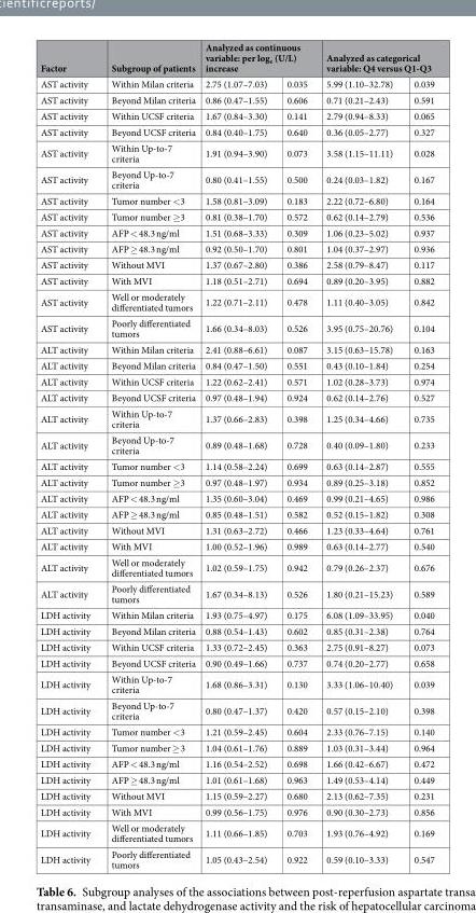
<table><thead><tr><td rowspan="2">Factor AST activity</td><td rowspan="2">Subgroup of patients Within Milan criteria</td><td colspan="2">Analyzed as continuous variable: per log<sub>e</sub> (U/L) increase</td><td colspan="2">Analyzed as categorical variable: Q4 versus Q1-Q3</td></tr><tr><td>2.75 (1.07–7.03)</td><td>0.035</td><td>5.99 (1.10–32.78)</td><td>0.039</td></tr></thead><tbody><tr><td>AST activity</td><td>Beyond Milan criteria</td><td>0.86 (0.47–1.55)</td><td>0.606</td><td>0.71 (0.21–2.43)</td><td>0.591</td></tr><tr><td>AST activity</td><td>Within UCSF criteria</td><td>1.67 (0.84–3.30)</td><td>0.141</td><td>2.79 (0.94–8.33)</td><td>0.065</td></tr><tr><td>AST activity</td><td>Beyond UCSF criteria</td><td>0.84 (0.40–1.75)</td><td>0.640</td><td>0.36 (0.05–2.77)</td><td>0.327</td></tr><tr><td>AST activity</td><td>Within Up-to-7 criteria</td><td>1.91 (0.94–3.90)</td><td>0.073</td><td>3.58 (1.15–11.11)</td><td>0.028</td></tr><tr><td>AST activity</td><td>Beyond Up-to-7 criteria</td><td>0.80 (0.41–1.55)</td><td>0.500</td><td>0.24 (0.03–1.82)</td><td>0.167</td></tr><tr><td>AST activity</td><td>Tumor number &lt;3</td><td>1.58 (0.81–3.09)</td><td>0.183</td><td>2.22 (0.72–6.80)</td><td>0.164</td></tr><tr><td>AST activity</td><td>Tumor number ≥3</td><td>0.81 (0.38–1.70)</td><td>0.572</td><td>0.62 (0.14–2.79)</td><td>0.536</td></tr><tr><td>AST activity</td><td>AFP &lt; 48.3 ng/ml</td><td>1.51 (0.68–3.33)</td><td>0.309</td><td>1.06 (0.23–5.02)</td><td>0.937</td></tr><tr><td>AST activity</td><td>AFP ≥ 48.3 ng/ml</td><td>0.92 (0.50–1.70)</td><td>0.801</td><td>1.04 (0.37–2.97)</td><td>0.936</td></tr><tr><td>AST activity</td><td>Without MVI</td><td>1.37 (0.67–2.80)</td><td>0.386</td><td>2.58 (0.79–8.47)</td><td>0.117</td></tr><tr><td>AST activity</td><td>With MVI</td><td>1.18 (0.51–2.71)</td><td>0.694</td><td>0.89 (0.20–3.95)</td><td>0.882</td></tr><tr><td>AST activity</td><td>Well or moderately differentiated tumors</td><td>1.22 (0.71–2.11)</td><td>0.478</td><td>1.11 (0.40–3.05)</td><td>0.842</td></tr><tr><td>AST activity</td><td>Poorly differentiated tumors</td><td>1.66 (0.34–8.03)</td><td>0.526</td><td>3.95 (0.75–20.76)</td><td>0.104</td></tr><tr><td>ALT activity</td><td>Within Milan criteria</td><td>2.41 (0.88–6.61)</td><td>0.087</td><td>3.15 (0.63–15.78)</td><td>0.163</td></tr><tr><td>ALT activity</td><td>Beyond Milan criteria</td><td>0.84 (0.47–1.50)</td><td>0.551</td><td>0.43 (0.10–1.84)</td><td>0.254</td></tr><tr><td>ALT activity</td><td>Within UCSF criteria</td><td>1.22 (0.62–2.41)</td><td>0.571</td><td>1.02 (0.28–3.73)</td><td>0.974</td></tr><tr><td>ALT activity</td><td>Beyond UCSF criteria</td><td>0.97 (0.48–1.94)</td><td>0.924</td><td>0.62 (0.14–2.76)</td><td>0.527</td></tr><tr><td>ALT activity</td><td>Within Up-to-7 criteria</td><td>1.37 (0.66–2.83)</td><td>0.398</td><td>1.25 (0.34–4.66)</td><td>0.735</td></tr><tr><td>ALT activity</td><td>Beyond Up-to-7 criteria</td><td>0.89 (0.48–1.68)</td><td>0.728</td><td>0.40 (0.09–1.80)</td><td>0.233</td></tr><tr><td>ALT activity</td><td>Tumor number &lt;3</td><td>1.14 (0.58–2.24)</td><td>0.699</td><td>0.63 (0.14–2.87)</td><td>0.555</td></tr><tr><td>ALT activity</td><td>Tumor number ≥3</td><td>0.97 (0.48–1.97)</td><td>0.934</td><td>0.89 (0.25–3.18)</td><td>0.852</td></tr><tr><td>ALT activity</td><td>AFP &lt; 48.3 ng/ml</td><td>1.35 (0.60–3.04)</td><td>0.469</td><td>0.99 (0.21–4.65)</td><td>0.986</td></tr><tr><td>ALT activity</td><td>AFP ≥ 48.3 ng/ml</td><td>0.85 (0.48–1.51)</td><td>0.582</td><td>0.52 (0.15–1.82)</td><td>0.308</td></tr><tr><td>ALT activity</td><td>Without MVI</td><td>1.31 (0.63–2.72)</td><td>0.466</td><td>1.23 (0.33–4.64)</td><td>0.761</td></tr><tr><td>ALT activity</td><td>With MVI</td><td>1.00 (0.52–1.96)</td><td>0.989</td><td>0.63 (0.14–2.77)</td><td>0.540</td></tr><tr><td>ALT activity</td><td>Well or moderately differentiated tumors</td><td>1.02 (0.59–1.75)</td><td>0.942</td><td>0.79 (0.26–2.37)</td><td>0.676</td></tr><tr><td>ALT activity</td><td>Poorly differentiated tumors</td><td>1.67 (0.34–8.13)</td><td>0.526</td><td>1.80 (0.21–15.23)</td><td>0.589</td></tr><tr><td>LDH activity</td><td>Within Milan criteria</td><td>1.93 (0.75–4.97)</td><td>0.175</td><td>6.08 (1.09–33.95)</td><td>0.040</td></tr><tr><td>LDH activity</td><td>Beyond Milan criteria</td><td>0.88 (0.54–1.43)</td><td>0.602</td><td>0.85 (0.31–2.38)</td><td>0.764</td></tr><tr><td>LDH activity</td><td>Within UCSF criteria</td><td>1.33 (0.72–2.45)</td><td>0.363</td><td>2.75 (0.91–8.27)</td><td>0.073</td></tr><tr><td>LDH activity</td><td>Beyond UCSF criteria</td><td>0.90 (0.49–1.66)</td><td>0.737</td><td>0.74 (0.20–2.77)</td><td>0.658</td></tr><tr><td>LDH activity</td><td>Within Up-to-7 criteria</td><td>1.68 (0.86–3.31)</td><td>0.130</td><td>3.33 (1.06–10.40)</td><td>0.039</td></tr><tr><td>LDH activity</td><td>Beyond Up-to-7 criteria</td><td>0.80 (0.47–1.37)</td><td>0.420</td><td>0.57 (0.15–2.10)</td><td>0.398</td></tr><tr><td>LDH activity</td><td>Tumor number &lt;3</td><td>1.21 (0.59–2.45)</td><td>0.604</td><td>2.33 (0.76–7.15)</td><td>0.140</td></tr><tr><td>LDH activity</td><td>Tumor number ≥ 3</td><td>1.04 (0.61–1.76)</td><td>0.889</td><td>1.03 (0.31–3.44)</td><td>0.964</td></tr><tr><td>LDH activity</td><td>AFP &lt; 48.3 ng/ml</td><td>1.16 (0.54–2.52)</td><td>0.698</td><td>1.66 (0.42–6.67)</td><td>0.472</td></tr><tr><td>LDH activity</td><td>AFP ≥ 48.3 ng/ml</td><td>1.01 (0.61–1.68)</td><td>0.963</td><td>1.49 (0.53–4.14)</td><td>0.449</td></tr><tr><td>LDH activity</td><td>Without MVI</td><td>1.15 (0.59–2.27)</td><td>0.680</td><td>2.13 (0.62–7.35)</td><td>0.231</td></tr><tr><td>LDH activity</td><td>With MVI</td><td>0.99 (0.56–1.75)</td><td>0.976</td><td>0.90 (0.30–2.73)</td><td>0.856</td></tr><tr><td>LDH activity</td><td>Well or moderately differentiated tumors</td><td>1.11 (0.66–1.85)</td><td>0.703</td><td>1.93 (0.76–4.92)</td><td>0.169</td></tr><tr><td>LDH activity</td><td>Poorly differentiated tumors</td><td>1.05 (0.43–2.54)</td><td>0.922</td><td>0.59 (0.10–3.33)</td><td>0.547</td></tr></tbody></table>